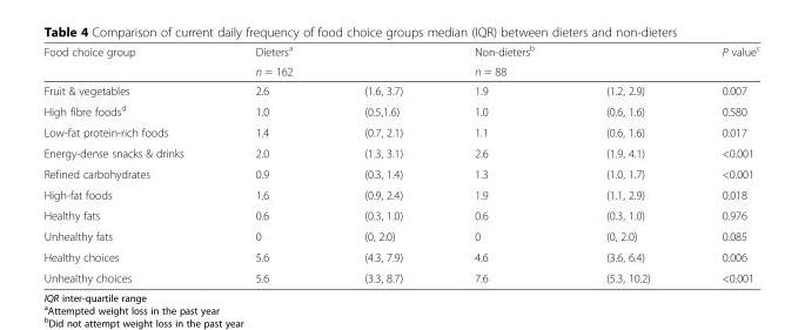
<table><thead><tr><td rowspan="2">Food choice group</td><td rowspan="2">Dieters<sup>a</sup> n = 162</td><td rowspan="2"></td><td rowspan="2">Non-dieters<sup>b</sup> n = 88</td><td rowspan="2"></td><td rowspan="2">P value<sup>c</sup></td></tr><tr></tr></thead><tbody><tr><td>Fruit &amp; vegetables</td><td>2.6</td><td>(1.6, 3.7)</td><td>1.9</td><td>(1.2, 2.9)</td><td>0.007</td></tr><tr><td>High fibre foods<sup>d</sup></td><td>1.0</td><td>(0.5,1.6)</td><td>1.0</td><td>(0.6, 1.6)</td><td>0.580</td></tr><tr><td>Low-fat protein-rich foods</td><td>1.4</td><td>(0.7, 2.1)</td><td>1.1</td><td>(0.6, 1.6)</td><td>0.017</td></tr><tr><td>Energy-dense snacks &amp; drinks</td><td>2.0</td><td>(1.3, 3.1)</td><td>2.6</td><td>(1.9, 4.1)</td><td>&lt;0.001</td></tr><tr><td>Refined carbohydrates</td><td>0.9</td><td>(0.3, 1.4)</td><td>1.3</td><td>(1.0, 1.7)</td><td>&lt;0.001</td></tr><tr><td>High-fat foods</td><td>1.6</td><td>(0.9, 2.4)</td><td>1.9</td><td>(1.1, 2.9)</td><td>0.018</td></tr><tr><td>Healthy fats</td><td>0.6</td><td>(0.3, 1.0)</td><td>0.6</td><td>(0.3, 1.0)</td><td>0.976</td></tr><tr><td>Unhealthy fats</td><td>0</td><td>(0, 2.0)</td><td>0</td><td>(0, 2.0)</td><td>0.085</td></tr><tr><td>Healthy choices</td><td>5.6</td><td>(4.3, 7.9)</td><td>4.6</td><td>(3.6, 6.4)</td><td>0.006</td></tr><tr><td>Unhealthy choices</td><td>5.6</td><td>(3.3, 8.7)</td><td>7.6</td><td>(5.3, 10.2)</td><td>&lt;0.001</td></tr></tbody></table>